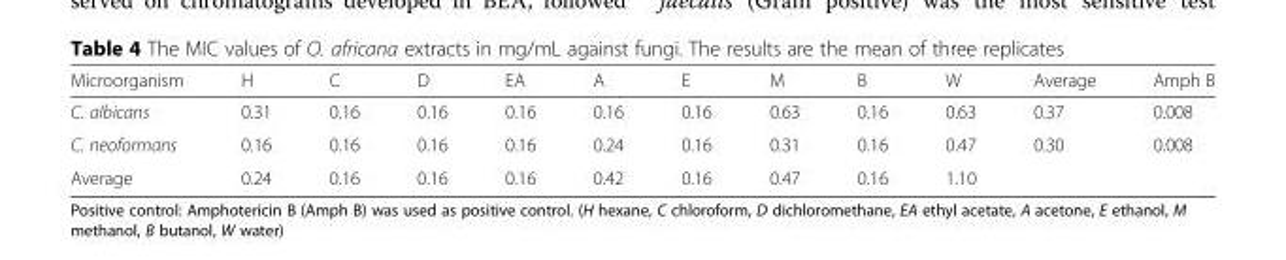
<table><thead><tr><td>Microorganism</td><td>H</td><td>C</td><td>D</td><td>EA</td><td>A</td><td>E</td><td>M</td><td>B</td><td>W</td><td>Average</td><td>Amph B</td></tr></thead><tbody><tr><td>C. albicans</td><td>0.31</td><td>0.16</td><td>0.16</td><td>0.16</td><td>0.16</td><td>0.16</td><td>0.63</td><td>0.16</td><td>0.63</td><td>0.37</td><td>0.008</td></tr><tr><td>C. neoformans</td><td>0.16</td><td>0.16</td><td>0.16</td><td>0.16</td><td>0.24</td><td>0.16</td><td>0.31</td><td>0.16</td><td>0.47</td><td>0.30</td><td>0.008</td></tr><tr><td>Average</td><td>0.24</td><td>0.16</td><td>0.16</td><td>0.16</td><td>0.42</td><td>0.16</td><td>0.47</td><td>0.16</td><td>1.10</td><td></td><td></td></tr></tbody></table>